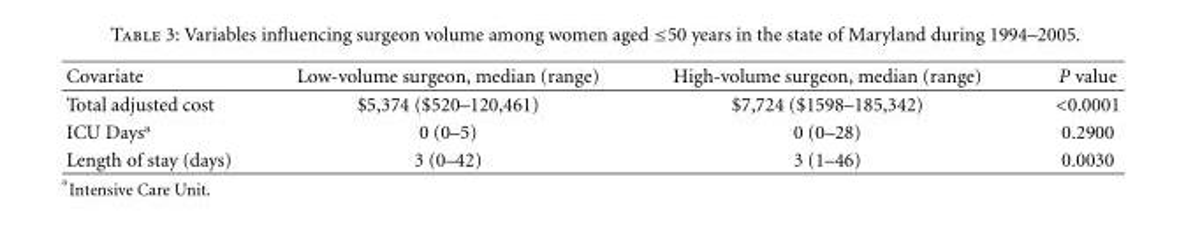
<table><thead><tr><td>Covariate</td><td>Low-volume surgeon, median (range)</td><td>High-volume surgeon, median (range)</td><td>P value</td></tr></thead><tbody><tr><td>Total adjusted cost</td><td>$5,374 ($520–120,461)</td><td>$7,724 ($1598–185,342)</td><td>&lt;0.0001</td></tr><tr><td>ICU Days<sup>a</sup></td><td>0 (0–5)</td><td>0 (0–28)</td><td>0.2900</td></tr><tr><td>Length of stay (days)</td><td>3 (0–42)</td><td>3 (1–46)</td><td>0.0030</td></tr></tbody></table>